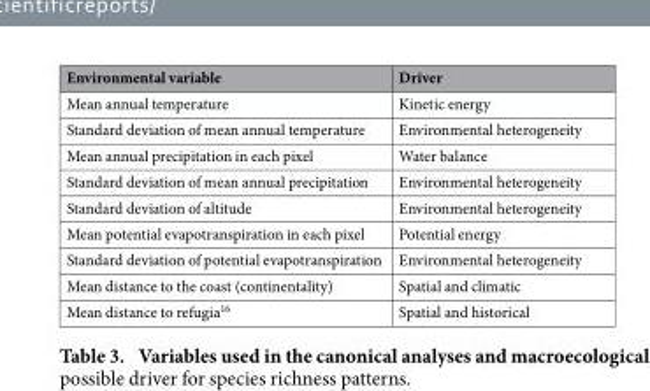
<table><thead><tr><td>Environmental variable</td><td>Driver</td></tr></thead><tbody><tr><td>Mean annual temperature</td><td>Kinetic energy</td></tr><tr><td>Standard deviation of mean annual temperature</td><td>Environmental heterogeneity</td></tr><tr><td>Mean annual precipitation in each pixel</td><td>Water balance</td></tr><tr><td>Standard deviation of mean annual precipitation</td><td>Environmental heterogeneity</td></tr><tr><td>Standard deviation of altitude</td><td>Environmental heterogeneity</td></tr><tr><td>Mean potential evapotranspiration in each pixel</td><td>Potential energy</td></tr><tr><td>Standard deviation of potential evapotranspiration</td><td>Environmental heterogeneity</td></tr><tr><td>Mean distance to the coast (continentality)</td><td>Spatial and climatic</td></tr><tr><td>Mean distance to refugia<sup>16</sup></td><td>Spatial and historical</td></tr></tbody></table>